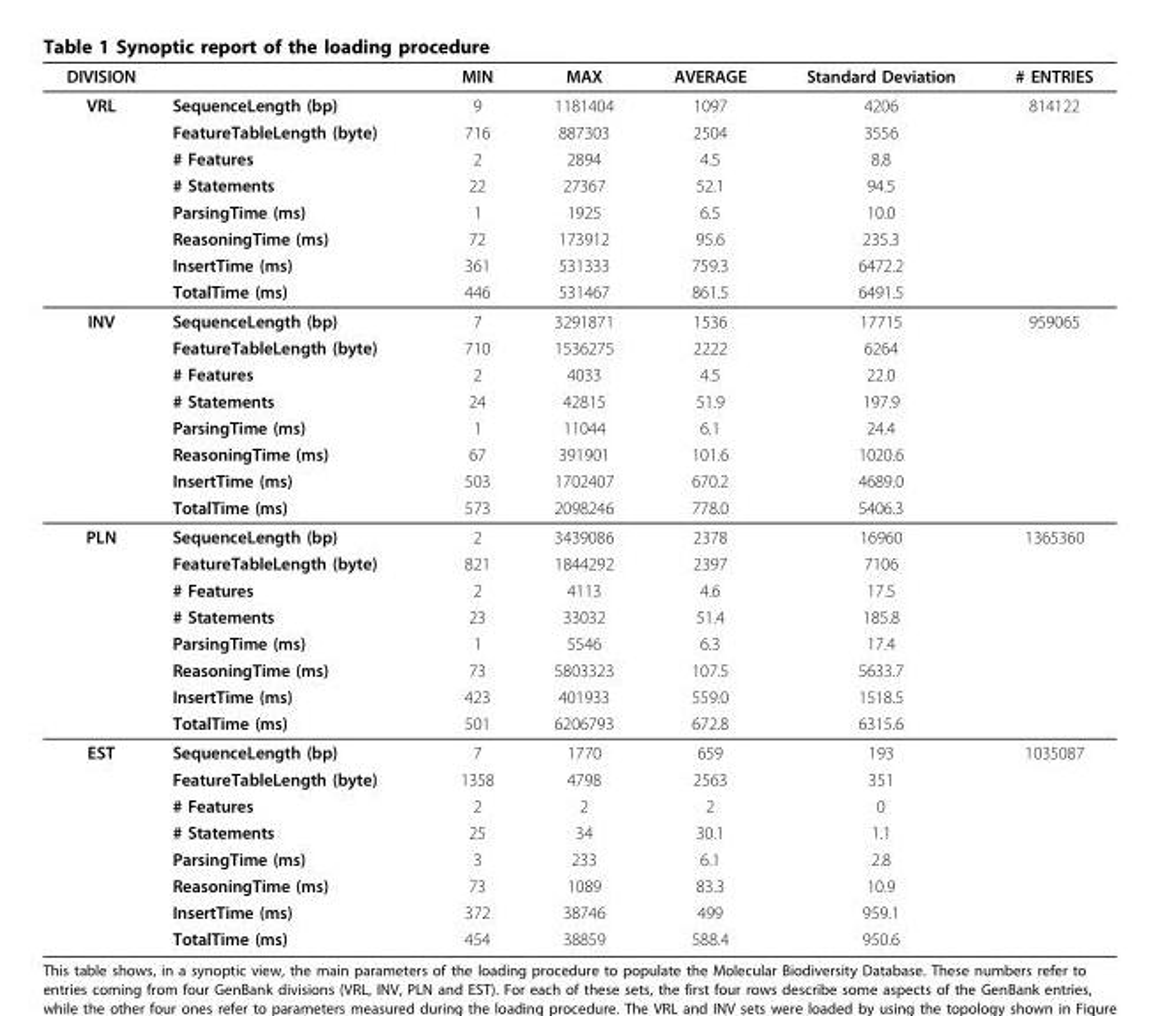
<table><thead><tr><td>DIVISION</td><td></td><td>MIN</td><td>MAX</td><td>AVERAGE</td><td>Standard Deviation</td><td># ENTRIES</td></tr></thead><tbody><tr><td rowspan="8">VRL</td><td>SequenceLength (bp)</td><td>9</td><td>1181404</td><td>1097</td><td>4206</td><td>814122</td></tr><tr><td>FeatureTableLength (byte)</td><td>716</td><td>887303</td><td>2504</td><td>3556</td><td></td></tr><tr><td># Features</td><td>2</td><td>2894</td><td>4.5</td><td>8.8</td><td></td></tr><tr><td># Statements</td><td>22</td><td>27367</td><td>52.1</td><td>94.5</td><td></td></tr><tr><td>ParsingTime (ms)</td><td>1</td><td>1925</td><td>6.5</td><td>10.0</td><td></td></tr><tr><td>ReasoningTime (ms)</td><td>72</td><td>173912</td><td>95.6</td><td>235.3</td><td></td></tr><tr><td>InsertTime (ms)</td><td>361</td><td>531333</td><td>759.3</td><td>6472.2</td><td></td></tr><tr><td>TotalTime (ms)</td><td>446</td><td>531467</td><td>861.5</td><td>6491.5</td><td></td></tr><tr><td rowspan="8">INV</td><td>SequenceLength (bp)</td><td>7</td><td>3291871</td><td>1536</td><td>17715</td><td>959065</td></tr><tr><td>FeatureTableLength (byte)</td><td>710</td><td>1536275</td><td>2222</td><td>6264</td><td></td></tr><tr><td># Features</td><td>2</td><td>4033</td><td>4.5</td><td>22.0</td><td></td></tr><tr><td># Statements</td><td>24</td><td>42815</td><td>51.9</td><td>197.9</td><td></td></tr><tr><td>ParsingTime (ms)</td><td>1</td><td>11044</td><td>6.1</td><td>24.4</td><td></td></tr><tr><td>ReasoningTime (ms)</td><td>67</td><td>391901</td><td>101.6</td><td>1020.6</td><td></td></tr><tr><td>InsertTime (ms)</td><td>503</td><td>1702407</td><td>670.2</td><td>4689.0</td><td></td></tr><tr><td>TotalTime (ms)</td><td>573</td><td>2098246</td><td>778.0</td><td>5406.3</td><td></td></tr><tr><td rowspan="8">PLN</td><td>SequenceLength (bp)</td><td>2</td><td>3439086</td><td>2378</td><td>16960</td><td>1365360</td></tr><tr><td>FeatureTableLength (byte)</td><td>821</td><td>1844292</td><td>2397</td><td>7106</td><td></td></tr><tr><td># Features</td><td>2</td><td>4113</td><td>4.6</td><td>17.5</td><td></td></tr><tr><td># Statements</td><td>23</td><td>33032</td><td>51.4</td><td>185.8</td><td></td></tr><tr><td>ParsingTime (ms)</td><td>1</td><td>5546</td><td>6.3</td><td>17.4</td><td></td></tr><tr><td>ReasoningTime (ms)</td><td>73</td><td>5803323</td><td>107.5</td><td>5633.7</td><td></td></tr><tr><td>InsertTime (ms)</td><td>423</td><td>401933</td><td>559.0</td><td>1518.5</td><td></td></tr><tr><td>TotalTime (ms)</td><td>501</td><td>6206793</td><td>672.8</td><td>6315.6</td><td></td></tr><tr><td rowspan="8">EST</td><td>SequenceLength (bp)</td><td>7</td><td>1770</td><td>659</td><td>193</td><td>1035087</td></tr><tr><td>FeatureTableLength (byte)</td><td>1358</td><td>4798</td><td>2563</td><td>351</td><td></td></tr><tr><td># Features</td><td>2</td><td>2</td><td>2</td><td>0</td><td></td></tr><tr><td># Statements</td><td>25</td><td>34</td><td>30.1</td><td>1.1</td><td></td></tr><tr><td>ParsingTime (ms)</td><td>3</td><td>233</td><td>6.1</td><td>2.8</td><td></td></tr><tr><td>ReasoningTime (ms)</td><td>73</td><td>1089</td><td>83.3</td><td>10.9</td><td></td></tr><tr><td>InsertTime (ms)</td><td>372</td><td>38746</td><td>499</td><td>959.1</td><td></td></tr><tr><td>TotalTime (ms)</td><td>454</td><td>38859</td><td>588.4</td><td>950.6</td><td></td></tr></tbody></table>